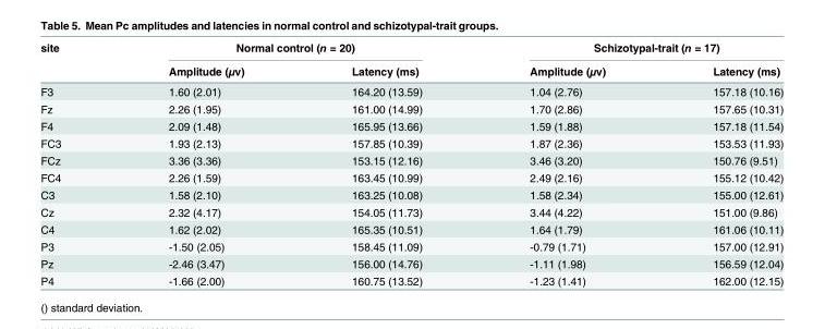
<table><thead><tr><td rowspan="2">site</td><td colspan="2">Normal control (n = 20)</td><td colspan="2">Schizotypal-trait (n = 17)</td></tr><tr><td>Amplitude (μv)</td><td>Latency (ms)</td><td>Amplitude (μv)</td><td>Latency (ms)</td></tr></thead><tbody><tr><td>F3</td><td>1.60 (2.01)</td><td>164.20 (13.59)</td><td>1.04 (2.76)</td><td>157.18 (10.16)</td></tr><tr><td>Fz</td><td>2.26 (1.95)</td><td>161.00 (14.99)</td><td>1.70 (2.86)</td><td>157.65 (10.31)</td></tr><tr><td>F4</td><td>2.09 (1.48)</td><td>165.95 (13.66)</td><td>1.59 (1.88)</td><td>157.18 (11.54)</td></tr><tr><td>FC3</td><td>1.93 (2.13)</td><td>157.85 (10.39)</td><td>1.87 (2.36)</td><td>153.53 (11.93)</td></tr><tr><td>FCz</td><td>3.36 (3.36)</td><td>153.15 (12.16)</td><td>3.46 (3.20)</td><td>150.76 (9.51)</td></tr><tr><td>FC4</td><td>2.26 (1.59)</td><td>163.45 (10.99)</td><td>2.49 (2.16)</td><td>155.12 (10.42)</td></tr><tr><td>C3</td><td>1.58 (2.10)</td><td>163.25 (10.08)</td><td>1.58 (2.34)</td><td>155.00 (12.61)</td></tr><tr><td>Cz</td><td>2.32 (4.17)</td><td>154.05 (11.73)</td><td>3.44 (4.22)</td><td>151.00 (9.86)</td></tr><tr><td>C4</td><td>1.62 (2.02)</td><td>165.35 (10.51)</td><td>1.64 (1.79)</td><td>161.06 (10.11)</td></tr><tr><td>P3</td><td>-1.50 (2.05)</td><td>158.45 (11.09)</td><td>-0.79 (1.71)</td><td>157.00 (12.91)</td></tr><tr><td>Pz</td><td>-2.46 (3.47)</td><td>156.00 (14.76)</td><td>-1.11 (1.98)</td><td>156.59 (12.04)</td></tr><tr><td>P4</td><td>-1.66 (2.00)</td><td>160.75 (13.52)</td><td>-1.23 (1.41)</td><td>162.00 (12.15)</td></tr></tbody></table>